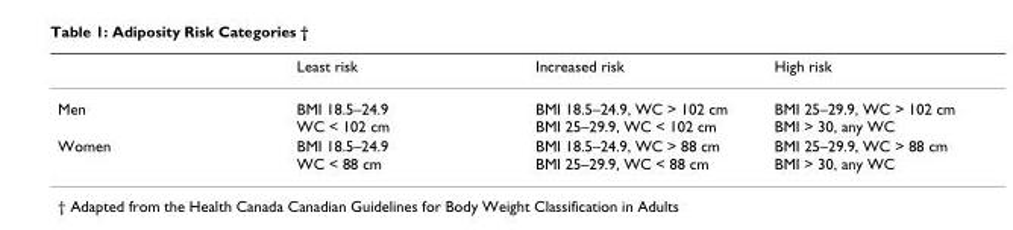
<table><thead><tr><td></td><td>Least risk</td><td>Increased risk</td><td>High risk</td></tr></thead><tbody><tr><td>Men</td><td>BMI 18.5–24.9 WC &lt; 102 cm</td><td>BMI 18.5–24.9, WC &gt; 102 cm BMI 25–29.9, WC &lt; 102 cm</td><td>BMI 25–29.9, WC &gt; 102 cm BMI &gt; 30, any WC</td></tr><tr><td>Women</td><td>BMI 18.5–24.9 WC &lt; 88 cm</td><td>BMI 18.5–24.9, WC &gt; 88 cm BMI 25–29.9, WC &lt; 88 cm</td><td>BMI 25–29.9, WC &gt; 88 cm BMI &gt; 30, any WC</td></tr></tbody></table>